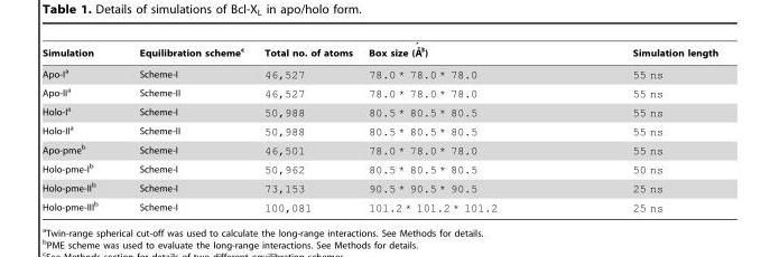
<table><thead><tr><td>Simulation</td><td>Equilibration scheme<sup>c</sup></td><td>Total no. of atoms</td><td>Box size (A˚´ 3)</td><td>Simulation length</td></tr></thead><tbody><tr><td>Apo-I<sup>a</sup></td><td>Scheme-I</td><td>46,527</td><td>78.0 * 78.0 * 78.0</td><td>55 ns</td></tr><tr><td>Apo-II<sup>a</sup></td><td>Scheme-II</td><td>46,527</td><td>78.0 * 78.0 * 78.0</td><td>55 ns</td></tr><tr><td>Holo-I<sup>a</sup></td><td>Scheme-I</td><td>50,988</td><td>80.5 * 80.5 * 80.5</td><td>55 ns</td></tr><tr><td>Holo-II<sup>a</sup></td><td>Scheme-II</td><td>50,988</td><td>80.5 * 80.5 * 80.5</td><td>55 ns</td></tr><tr><td>Apo-pme<sup>b</sup></td><td>Scheme-I</td><td>46,501</td><td>78.0 * 78.0 * 78.0</td><td>55 ns</td></tr><tr><td>Holo-pme-I<sup>b</sup></td><td>Scheme-I</td><td>50,962</td><td>80.5 * 80.5 * 80.5</td><td>50 ns</td></tr><tr><td>Holo-pme-II<sup>b</sup></td><td>Scheme-I</td><td>73,153</td><td>90.5 * 90.5 * 90.5</td><td>25 ns</td></tr><tr><td>Holo-pme-III<sup>b</sup></td><td>Scheme-I</td><td>100,081</td><td>101.2 * 101.2 * 101.2</td><td>25 ns</td></tr></tbody></table>